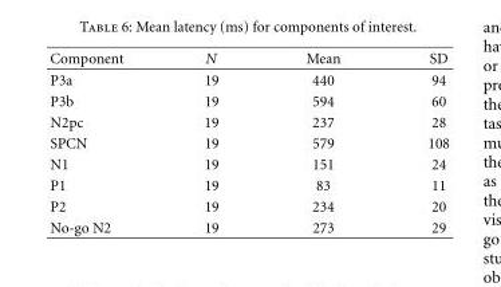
<table><thead><tr><td>Component</td><td>N</td><td>Mean</td><td>SD</td></tr></thead><tbody><tr><td>P3a</td><td>19</td><td>440</td><td>94</td></tr><tr><td>P3b</td><td>19</td><td>594</td><td>60</td></tr><tr><td>N2pc</td><td>19</td><td>237</td><td>28</td></tr><tr><td>SPCN</td><td>19</td><td>579</td><td>108</td></tr><tr><td>N1</td><td>19</td><td>151</td><td>24</td></tr><tr><td>P1</td><td>19</td><td>83</td><td>11</td></tr><tr><td>P2</td><td>19</td><td>234</td><td>20</td></tr><tr><td>No-go N2</td><td>19</td><td>273</td><td>29</td></tr></tbody></table>